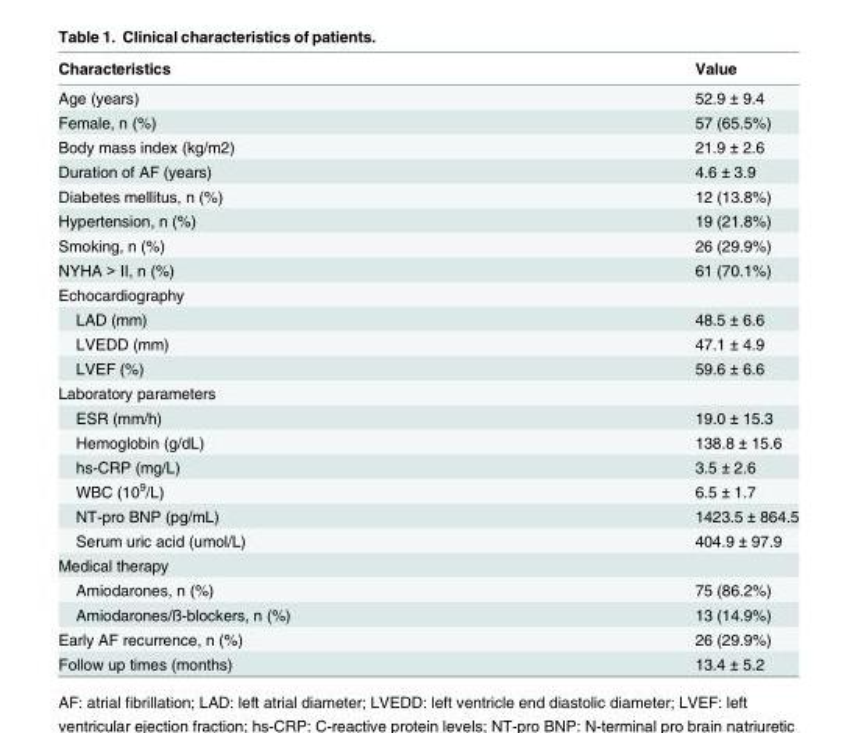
<table><thead><tr><td>Characteristics</td><td>Value</td></tr></thead><tbody><tr><td>Age (years)</td><td>52.9 ± 9.4</td></tr><tr><td>Female, n (%)</td><td>57 (65.5%)</td></tr><tr><td>Body mass index (kg/m2)</td><td>21.9 ± 2.6</td></tr><tr><td>Duration of AF (years)</td><td>4.6 ± 3.9</td></tr><tr><td>Diabetes mellitus, n (%)</td><td>12 (13.8%)</td></tr><tr><td>Hypertension, n (%)</td><td>19 (21.8%)</td></tr><tr><td>Smoking, n (%)</td><td>26 (29.9%)</td></tr><tr><td>NYHA &gt; II, n (%)</td><td>61 (70.1%)</td></tr><tr><td colspan="2">Echocardiography</td></tr><tr><td>LAD (mm)</td><td>48.5 ± 6.6</td></tr><tr><td>LVEDD (mm)</td><td>47.1 ± 4.9</td></tr><tr><td>LVEF (%)</td><td>59.6 ± 6.6</td></tr><tr><td colspan="2">Laboratory parameters</td></tr><tr><td>ESR (mm/h)</td><td>19.0 ± 15.3</td></tr><tr><td>Hemoglobin (g/dL)</td><td>138.8 ± 15.6</td></tr><tr><td>hs-CRP (mg/L)</td><td>3.5 ± 2.6</td></tr><tr><td>WBC (10<sup>9</sup>/L)</td><td>6.5 ± 1.7</td></tr><tr><td>NT-pro BNP (pg/mL)</td><td>1423.5 ± 864.5</td></tr><tr><td>Serum uric acid (umol/L)</td><td>404.9 ± 97.9</td></tr><tr><td colspan="2">Medical therapy</td></tr><tr><td>Amiodarones, n (%)</td><td>75 (86.2%)</td></tr><tr><td>Amiodarones/ß-blockers, n (%)</td><td>13 (14.9%)</td></tr><tr><td>Early AF recurrence, n (%)</td><td>26 (29.9%)</td></tr><tr><td>Follow up times (months)</td><td>13.4 ± 5.2</td></tr></tbody></table>